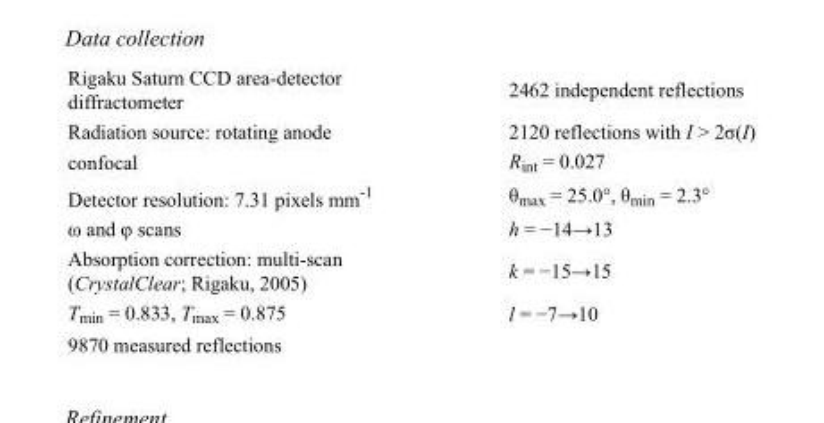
<table><tbody><tr><td>Rigaku Saturn CCD area-detector diffractometer</td><td>2462 independent reflections</td></tr><tr><td>Radiation source: rotating anode</td><td>2120 reflections with I &gt; 2σ(I)</td></tr><tr><td>confocal</td><td>R<sub>int</sub> = 0.027</td></tr><tr><td>Detector resolution: 7.31 pixels mm<sup>-1</sup></td><td>θ<sub>max</sub> = 25.0°, θ<sub>min</sub> = 2.3°</td></tr><tr><td>ω and φ scans</td><td>h = −14→13</td></tr><tr><td>Absorption correction: multi-scan (CrystalClear; Rigaku, 2005)</td><td>k = −15→15</td></tr><tr><td>T<sub>min</sub> = 0.833, T<sub>max</sub> = 0.875</td><td>l = −7→10</td></tr><tr><td>9870 measured reflections</td><td></td></tr></tbody></table>